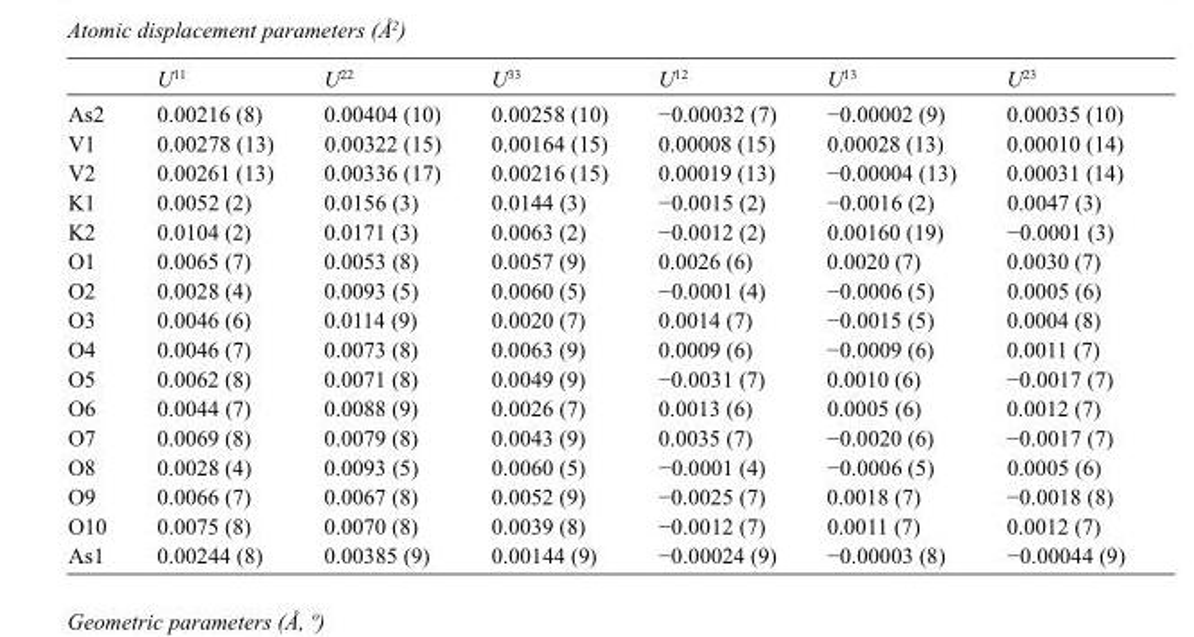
<table><thead><tr><td></td><td>U<sup>11</sup></td><td>U<sup>22</sup></td><td>U<sup>33</sup></td><td>U<sup>12</sup></td><td>U<sup>13</sup></td><td>U<sup>23</sup></td></tr></thead><tbody><tr><td>As2</td><td>0.00216 (8)</td><td>0.00404 (10)</td><td>0.00258 (10)</td><td>−0.00032 (7)</td><td>−0.00002 (9)</td><td>0.00035 (10)</td></tr><tr><td>V1</td><td>0.00278 (13)</td><td>0.00322 (15)</td><td>0.00164 (15)</td><td>0.00008 (15)</td><td>0.00028 (13)</td><td>0.00010 (14)</td></tr><tr><td>V2</td><td>0.00261 (13)</td><td>0.00336 (17)</td><td>0.00216 (15)</td><td>0.00019 (13)</td><td>−0.00004 (13)</td><td>0.00031 (14)</td></tr><tr><td>K1</td><td>0.0052 (2)</td><td>0.0156 (3)</td><td>0.0144 (3)</td><td>−0.0015 (2)</td><td>−0.0016 (2)</td><td>0.0047 (3)</td></tr><tr><td>K2</td><td>0.0104 (2)</td><td>0.0171 (3)</td><td>0.0063 (2)</td><td>−0.0012 (2)</td><td>0.00160 (19)</td><td>−0.0001 (3)</td></tr><tr><td>O1</td><td>0.0065 (7)</td><td>0.0053 (8)</td><td>0.0057 (9)</td><td>0.0026 (6)</td><td>0.0020 (7)</td><td>0.0030 (7)</td></tr><tr><td>O2</td><td>0.0028 (4)</td><td>0.0093 (5)</td><td>0.0060 (5)</td><td>−0.0001 (4)</td><td>−0.0006 (5)</td><td>0.0005 (6)</td></tr><tr><td>O3</td><td>0.0046 (6)</td><td>0.0114 (9)</td><td>0.0020 (7)</td><td>0.0014 (7)</td><td>−0.0015 (5)</td><td>0.0004 (8)</td></tr><tr><td>O4</td><td>0.0046 (7)</td><td>0.0073 (8)</td><td>0.0063 (9)</td><td>0.0009 (6)</td><td>−0.0009 (6)</td><td>0.0011 (7)</td></tr><tr><td>O5</td><td>0.0062 (8)</td><td>0.0071 (8)</td><td>0.0049 (9)</td><td>−0.0031 (7)</td><td>0.0010 (6)</td><td>−0.0017 (7)</td></tr><tr><td>O6</td><td>0.0044 (7)</td><td>0.0088 (9)</td><td>0.0026 (7)</td><td>0.0013 (6)</td><td>0.0005 (6)</td><td>0.0012 (7)</td></tr><tr><td>O7</td><td>0.0069 (8)</td><td>0.0079 (8)</td><td>0.0043 (9)</td><td>0.0035 (7)</td><td>−0.0020 (6)</td><td>−0.0017 (7)</td></tr><tr><td>O8</td><td>0.0028 (4)</td><td>0.0093 (5)</td><td>0.0060 (5)</td><td>−0.0001 (4)</td><td>−0.0006 (5)</td><td>0.0005 (6)</td></tr><tr><td>O9</td><td>0.0066 (7)</td><td>0.0067 (8)</td><td>0.0052 (9)</td><td>−0.0025 (7)</td><td>0.0018 (7)</td><td>−0.0018 (8)</td></tr><tr><td>O10</td><td>0.0075 (8)</td><td>0.0070 (8)</td><td>0.0039 (8)</td><td>−0.0012 (7)</td><td>0.0011 (7)</td><td>0.0012 (7)</td></tr><tr><td>As1</td><td>0.00244 (8)</td><td>0.00385 (9)</td><td>0.00144 (9)</td><td>−0.00024 (9)</td><td>−0.00003 (8)</td><td>−0.00044 (9)</td></tr></tbody></table>